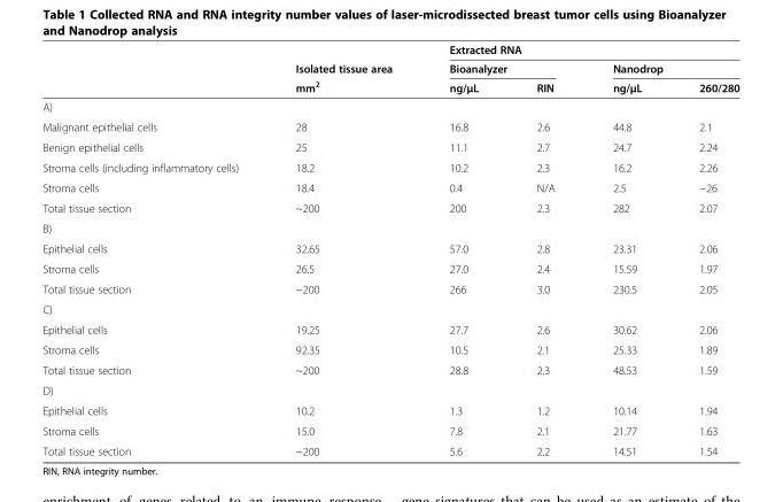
<table><thead><tr><td rowspan="3"></td><td rowspan="3">Isolated tissue area mm<sup>2</sup></td><td colspan="4">Extracted RNA</td></tr><tr><td colspan="2">Bioanalyzer</td><td colspan="2">Nanodrop</td></tr><tr><td>ng/μL</td><td>RIN</td><td>ng/μL</td><td>260/280</td></tr></thead><tbody><tr><td colspan="6">A)</td></tr><tr><td>Malignant epithelial cells</td><td>28</td><td>16.8</td><td>2.6</td><td>44.8</td><td>2.1</td></tr><tr><td>Benign epithelial cells</td><td>25</td><td>11.1</td><td>2.7</td><td>24.7</td><td>2.24</td></tr><tr><td>Stroma cells (including inflammatory cells)</td><td>18.2</td><td>10.2</td><td>2.3</td><td>16.2</td><td>2.26</td></tr><tr><td>Stroma cells</td><td>18.4</td><td>0.4</td><td>N/A</td><td>2.5</td><td>−26</td></tr><tr><td>Total tissue section</td><td>~200</td><td>200</td><td>2.3</td><td>282</td><td>2.07</td></tr><tr><td colspan="6">B)</td></tr><tr><td>Epithelial cells</td><td>32.65</td><td>57.0</td><td>2.8</td><td>23.31</td><td>2.06</td></tr><tr><td>Stroma cells</td><td>26.5</td><td>27.0</td><td>2.4</td><td>15.59</td><td>1.97</td></tr><tr><td>Total tissue section</td><td>~200</td><td>266</td><td>3.0</td><td>230.5</td><td>2.05</td></tr><tr><td colspan="6">C)</td></tr><tr><td>Epithelial cells</td><td>19.25</td><td>27.7</td><td>2.6</td><td>30.62</td><td>2.06</td></tr><tr><td>Stroma cells</td><td>92.35</td><td>10.5</td><td>2.1</td><td>25.33</td><td>1.89</td></tr><tr><td>Total tissue section</td><td>~200</td><td>28.8</td><td>2.3</td><td>48.53</td><td>1.59</td></tr><tr><td colspan="6">D)</td></tr><tr><td>Epithelial cells</td><td>10.2</td><td>1.3</td><td>1.2</td><td>10.14</td><td>1.94</td></tr><tr><td>Stroma cells</td><td>15.0</td><td>7.8</td><td>2.1</td><td>21.77</td><td>1.63</td></tr><tr><td>Total tissue section</td><td>~200</td><td>5.6</td><td>2.2</td><td>14.51</td><td>1.54</td></tr></tbody></table>